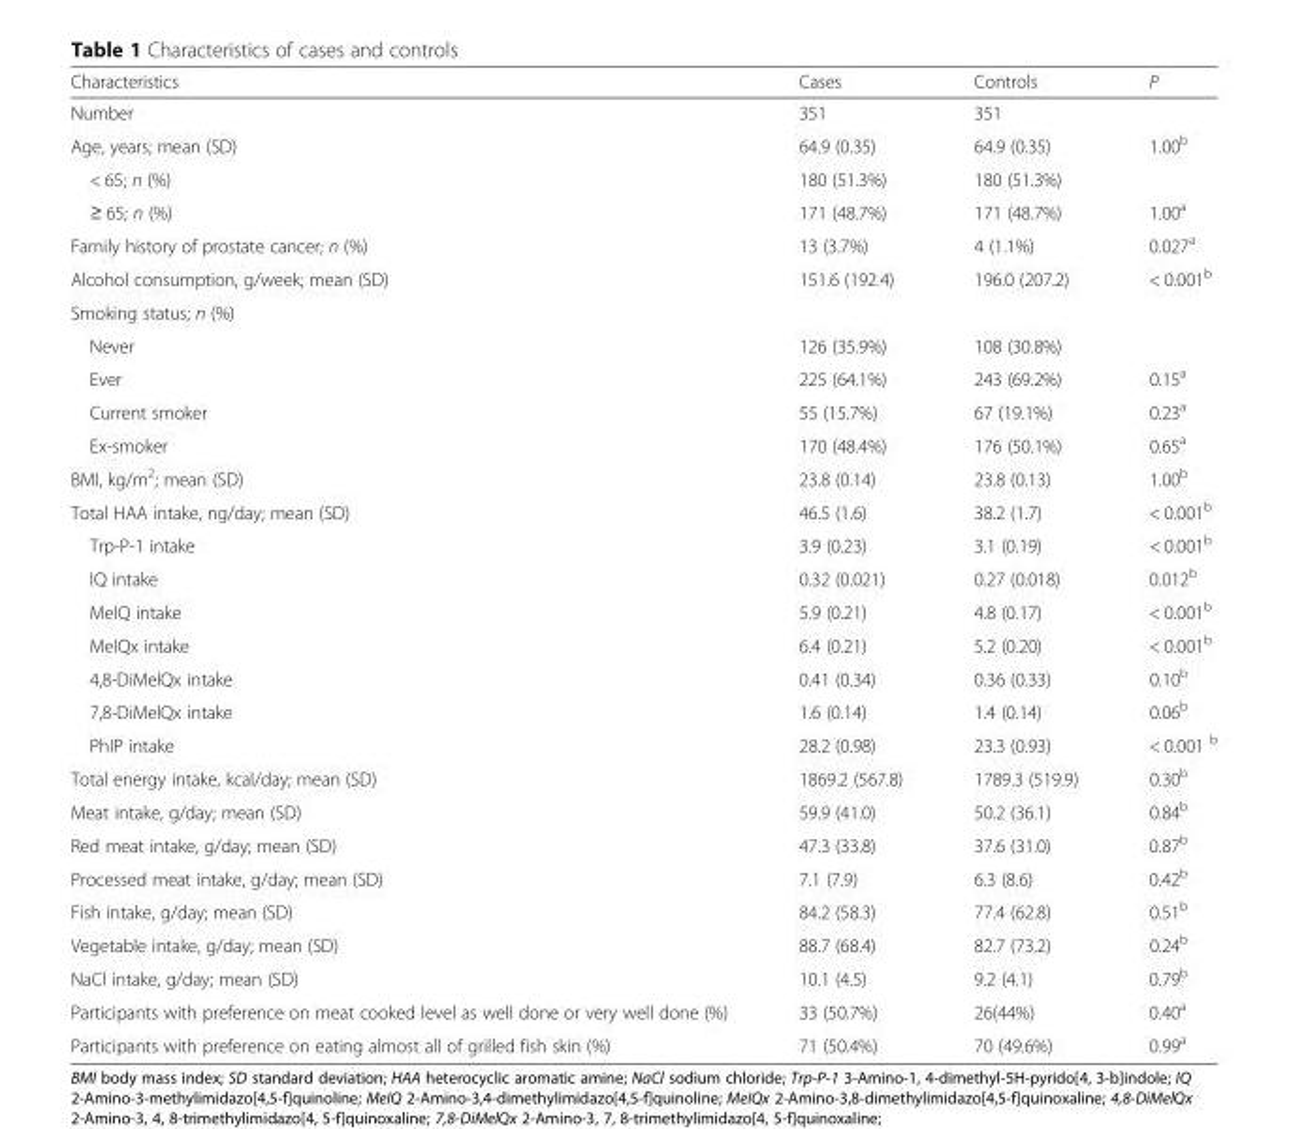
<table><thead><tr><td>Characteristics</td><td>Cases</td><td>Controls</td><td>P</td></tr></thead><tbody><tr><td>Number</td><td>351</td><td>351</td><td></td></tr><tr><td>Age, years; mean (SD)</td><td>64.9 (0.35)</td><td>64.9 (0.35)</td><td>1.00<sup>b</sup></td></tr><tr><td>&lt; 65; n (%)</td><td>180 (51.3%)</td><td>180 (51.3%)</td><td></td></tr><tr><td>≥ 65; n (%)</td><td>171 (48.7%)</td><td>171 (48.7%)</td><td>1.00<sup>a</sup></td></tr><tr><td>Family history of prostate cancer; n (%)</td><td>13 (3.7%)</td><td>4 (1.1%)</td><td>0.027<sup>a</sup></td></tr><tr><td>Alcohol consumption, g/week; mean (SD)</td><td>151.6 (192.4)</td><td>196.0 (207.2)</td><td>&lt; 0.001<sup>b</sup></td></tr><tr><td colspan="4">Smoking status; n (%)</td></tr><tr><td>Never</td><td>126 (35.9%)</td><td>108 (30.8%)</td><td></td></tr><tr><td>Ever</td><td>225 (64.1%)</td><td>243 (69.2%)</td><td>0.15<sup>a</sup></td></tr><tr><td>Current smoker</td><td>55 (15.7%)</td><td>67 (19.1%)</td><td>0.23<sup>a</sup></td></tr><tr><td>Ex-smoker</td><td>170 (48.4%)</td><td>176 (50.1%)</td><td>0.65<sup>a</sup></td></tr><tr><td>BMI, kg/m<sup>2</sup>; mean (SD)</td><td>23.8 (0.14)</td><td>23.8 (0.13)</td><td>1.00<sup>b</sup></td></tr><tr><td>Total HAA intake, ng/day; mean (SD)</td><td>46.5 (1.6)</td><td>38.2 (1.7)</td><td>&lt; 0.001<sup>b</sup></td></tr><tr><td>Trp-P-1 intake</td><td>3.9 (0.23)</td><td>3.1 (0.19)</td><td>&lt; 0.001<sup>b</sup></td></tr><tr><td>IQ intake</td><td>0.32 (0.021)</td><td>0.27 (0.018)</td><td>0.012<sup>b</sup></td></tr><tr><td>MeIQ intake</td><td>5.9 (0.21)</td><td>4.8 (0.17)</td><td>&lt; 0.001<sup>b</sup></td></tr><tr><td>MeIQx intake</td><td>6.4 (0.21)</td><td>5.2 (0.20)</td><td>&lt; 0.001<sup>b</sup></td></tr><tr><td>4,8-DiMelQx intake</td><td>0.41 (0.34)</td><td>0.36 (0.33)</td><td>0.10<sup>b</sup></td></tr><tr><td>7,8-DiMelQx intake</td><td>1.6 (0.14)</td><td>1.4 (0.14)</td><td>0.06<sup>b</sup></td></tr><tr><td>PhIP intake</td><td>28.2 (0.98)</td><td>23.3 (0.93)</td><td>&lt; 0.001 <sup>b</sup></td></tr><tr><td>Total energy intake, kcal/day; mean (SD)</td><td>1869.2 (567.8)</td><td>1789.3 (519.9)</td><td>0.30<sup>b</sup></td></tr><tr><td>Meat intake, g/day; mean (SD)</td><td>59.9 (41.0)</td><td>50.2 (36.1)</td><td>0.84<sup>b</sup></td></tr><tr><td>Red meat intake, g/day; mean (SD)</td><td>47.3 (33.8)</td><td>37.6 (31.0)</td><td>0.87<sup>b</sup></td></tr><tr><td>Processed meat intake, g/day; mean (SD)</td><td>7.1 (7.9)</td><td>6.3 (8.6)</td><td>0.42<sup>b</sup></td></tr><tr><td>Fish intake, g/day; mean (SD)</td><td>84.2 (58.3)</td><td>77.4 (62.8)</td><td>0.51<sup>b</sup></td></tr><tr><td>Vegetable intake, g/day; mean (SD)</td><td>88.7 (68.4)</td><td>82.7 (73.2)</td><td>0.24<sup>b</sup></td></tr><tr><td>NaCl intake, g/day; mean (SD)</td><td>10.1 (4.5)</td><td>9.2 (4.1)</td><td>0.79<sup>b</sup></td></tr><tr><td>Participants with preference on meat cooked level as well done or very well done (%)</td><td>33 (50.7%)</td><td>26(44%)</td><td>0.40<sup>a</sup></td></tr><tr><td>Participants with preference on eating almost all of grilled fish skin (%)</td><td>71 (50.4%)</td><td>70 (49.6%)</td><td>0.99<sup>a</sup></td></tr></tbody></table>